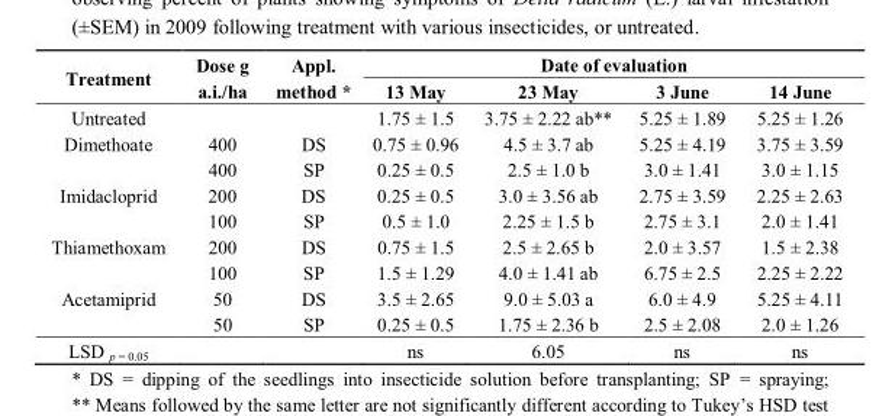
<table><thead><tr><td rowspan="2">Treatment</td><td rowspan="2">Dose g a.i./ha</td><td rowspan="2">Appl. method *</td><td colspan="4">Date of evaluation</td></tr><tr><td>13 May</td><td>23 May</td><td>3 June</td><td>14 June</td></tr></thead><tbody><tr><td>Untreated</td><td></td><td></td><td>1.75 ± 1.5</td><td>3.75 ± 2.22 ab**</td><td>5.25 ± 1.89</td><td>5.25 ± 1.26</td></tr><tr><td rowspan="2">Dimethoate</td><td>400</td><td>DS</td><td>0.75 ± 0.96</td><td>4.5 ± 3.7 ab</td><td>5.25 ± 4.19</td><td>3.75 ± 3.59</td></tr><tr><td>400</td><td>SP</td><td>0.25 ± 0.5</td><td>2.5 ± 1.0 b</td><td>3.0 ± 1.41</td><td>3.0 ± 1.15</td></tr><tr><td rowspan="2">Imidacloprid</td><td>200</td><td>DS</td><td>0.25 ± 0.5</td><td>3.0 ± 3.56 ab</td><td>2.75 ± 3.59</td><td>2.25 ± 2.63</td></tr><tr><td>100</td><td>SP</td><td>0.5 ± 1.0</td><td>2.25 ± 1.5 b</td><td>2.75 ± 3.1</td><td>2.0 ± 1.41</td></tr><tr><td rowspan="2">Thiamethoxam</td><td>200</td><td>DS</td><td>0.75 ± 1.5</td><td>2.5 ± 2.65 b</td><td>2.0 ± 3.57</td><td>1.5 ± 2.38</td></tr><tr><td>100</td><td>SP</td><td>1.5 ± 1.29</td><td>4.0 ± 1.41 ab</td><td>6.75 ± 2.5</td><td>2.25 ± 2.22</td></tr><tr><td rowspan="2">Acetamiprid</td><td>50</td><td>DS</td><td>3.5 ± 2.65</td><td>9.0 ± 5.03 a</td><td>6.0 ± 4.9</td><td>5.25 ± 4.11</td></tr><tr><td>50</td><td>SP</td><td>0.25 ± 0.5</td><td>1.75 ± 2.36 b</td><td>2.5 ± 2.08</td><td>2.0 ± 1.26</td></tr><tr><td>LSD <sub>p = 0.05</sub></td><td></td><td></td><td>ns</td><td>6.05</td><td>ns</td><td>ns</td></tr></tbody></table>